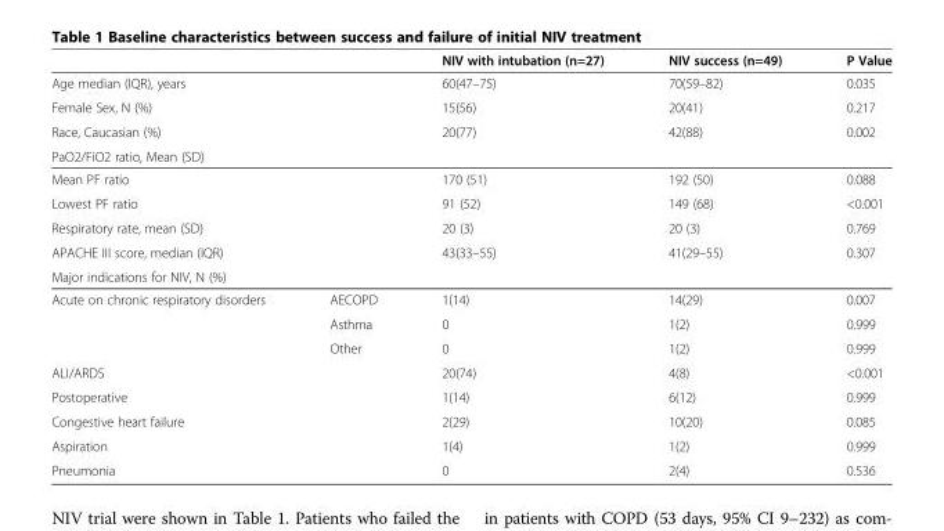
<table><thead><tr><td></td><td></td><td>NIV with intubation (n=27)</td><td>NIV success (n=49)</td><td>P Value</td></tr></thead><tbody><tr><td colspan="2">Age median (IQR), years</td><td>60(47–75)</td><td>70(59–82)</td><td>0.035</td></tr><tr><td colspan="2">Female Sex, N (%)</td><td>15(56)</td><td>20(41)</td><td>0.217</td></tr><tr><td colspan="2">Race, Caucasian (%)</td><td>20(77)</td><td>42(88)</td><td>0.002</td></tr><tr><td colspan="5">PaO2/FiO2 ratio, Mean (SD)</td></tr><tr><td colspan="2">Mean PF ratio</td><td>170 (51)</td><td>192 (50)</td><td>0.088</td></tr><tr><td colspan="2">Lowest PF ratio</td><td>91 (52)</td><td>149 (68)</td><td>&lt;0.001</td></tr><tr><td colspan="2">Respiratory rate, mean (SD)</td><td>20 (3)</td><td>20 (3)</td><td>0.769</td></tr><tr><td colspan="2">APACHE III score, median (IQR)</td><td>43(33–55)</td><td>41(29–55)</td><td>0.307</td></tr><tr><td colspan="5">Major indications for NIV, N (%)</td></tr><tr><td rowspan="3">Acute on chronic respiratory disorders</td><td>AECOPD</td><td>1(14)</td><td>14(29)</td><td>0.007</td></tr><tr><td>Asthma</td><td>0</td><td>1(2)</td><td>0.999</td></tr><tr><td>Other</td><td>0</td><td>1(2)</td><td>0.999</td></tr><tr><td colspan="2">ALI/ARDS</td><td>20(74)</td><td>4(8)</td><td>&lt;0.001</td></tr><tr><td colspan="2">Postoperative</td><td>1(14)</td><td>6(12)</td><td>0.999</td></tr><tr><td colspan="2">Congestive heart failure</td><td>2(29)</td><td>10(20)</td><td>0.085</td></tr><tr><td colspan="2">Aspiration</td><td>1(4)</td><td>1(2)</td><td>0.999</td></tr><tr><td colspan="2">Pneumonia</td><td>0</td><td>2(4)</td><td>0.536</td></tr></tbody></table>